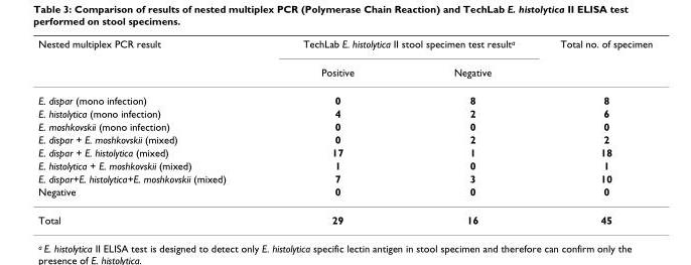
<table><thead><tr><td rowspan="2">Nested multiplex PCR result</td><td colspan="2">TechLab E. histolytica II stool specimen test resulta</td><td rowspan="2">Total no. of specimen</td></tr><tr><td>Positive</td><td>Negative</td></tr></thead><tbody><tr><td>E. dispar (mono infection)</td><td>0</td><td>8</td><td>8</td></tr><tr><td>E. histolytica (mono infection)</td><td>4</td><td>2</td><td>6</td></tr><tr><td>E. moshkovskii (mono infection)</td><td>0</td><td>0</td><td>0</td></tr><tr><td>E. dispar + E. moshkovskii (mixed)</td><td>0</td><td>2</td><td>2</td></tr><tr><td>E. dispar + E. histolytica (mixed)</td><td>17</td><td>1</td><td>18</td></tr><tr><td>E. histolytica + E. moshkovskii (mixed)</td><td>1</td><td>0</td><td>1</td></tr><tr><td>E. dispar+E. histolytica+E. moshkovskii (mixed)</td><td>7</td><td>3</td><td>10</td></tr><tr><td>Negative</td><td>0</td><td>0</td><td>0</td></tr><tr><td>Total</td><td>29</td><td>16</td><td>45</td></tr></tbody></table>